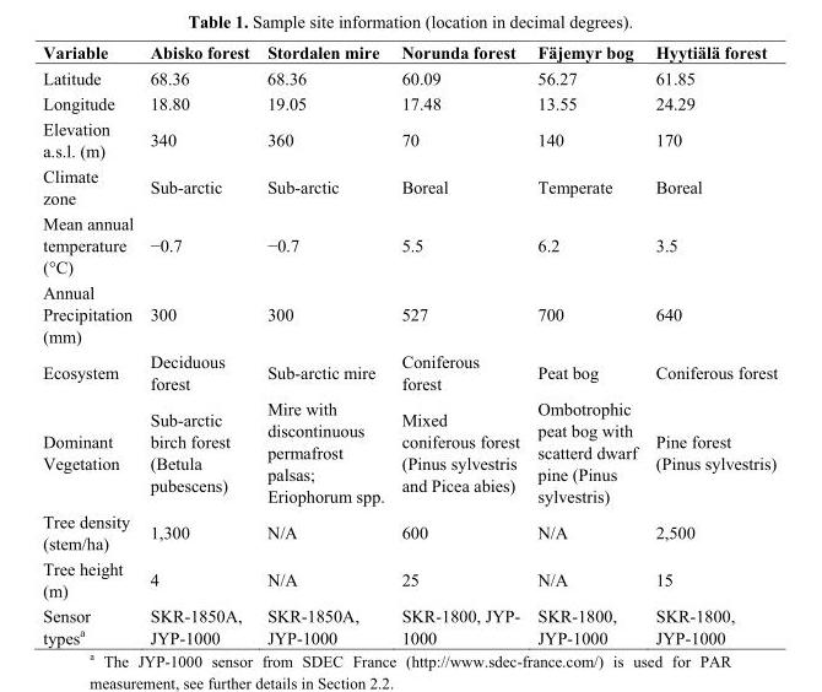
<table><thead><tr><td>Variable</td><td>Abisko forest</td><td>Stordalen mire</td><td>Norunda forest</td><td>Fäjemyr bog</td><td>Hyytiälä forest</td></tr></thead><tbody><tr><td>Latitude</td><td>68.36</td><td>68.36</td><td>60.09</td><td>56.27</td><td>61.85</td></tr><tr><td>Longitude</td><td>18.80</td><td>19.05</td><td>17.48</td><td>13.55</td><td>24.29</td></tr><tr><td>Elevation a.s.l. (m)</td><td>340</td><td>360</td><td>70</td><td>140</td><td>170</td></tr><tr><td>Climate zone</td><td>Sub-arctic</td><td>Sub-arctic</td><td>Boreal</td><td>Temperate</td><td>Boreal</td></tr><tr><td>Mean annual temperature (°C)</td><td>−0.7</td><td>−0.7</td><td>5.5</td><td>6.2</td><td>3.5</td></tr><tr><td>Annual Precipitation (mm)</td><td>300</td><td>300</td><td>527</td><td>700</td><td>640</td></tr><tr><td>Ecosystem</td><td>Deciduous forest</td><td>Sub-arctic mire</td><td>Coniferous forest</td><td>Peat bog</td><td>Coniferous forest</td></tr><tr><td>Dominant Vegetation</td><td>Sub-arctic birch forest (Betula pubescens)</td><td>Mire with discontinuous permafrost palsas; Eriophorum spp.</td><td>Mixed coniferous forest (Pinus sylvestris and Picea abies)</td><td>Ombotrophic peat bog with scatterd dwarf pine (Pinus sylvestris)</td><td>Pine forest (Pinus sylvestris)</td></tr><tr><td>Tree density (stem/ha)</td><td>1,300</td><td>N/A</td><td>600</td><td>N/A</td><td>2,500</td></tr><tr><td>Tree height (m)</td><td>4</td><td>N/A</td><td>25</td><td>N/A</td><td>15</td></tr><tr><td>Sensor types<sup>a</sup></td><td>SKR-1850A, JYP-1000</td><td>SKR-1850A, JYP-1000</td><td>SKR-1800, JYP- 1000</td><td>SKR-1800, JYP-1000</td><td>SKR-1800, JYP-1000</td></tr></tbody></table>